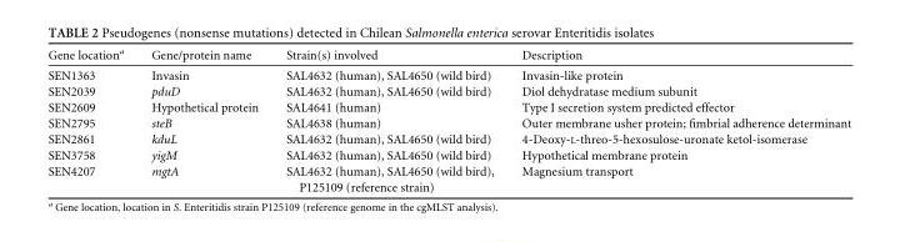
<table><thead><tr><td>Gene location<sup>a</sup></td><td>Gene/protein name</td><td>Strain(s) involved</td><td>Description</td></tr></thead><tbody><tr><td>SEN1363</td><td>Invasin</td><td>SAL4632 (human), SAL4650 (wild bird)</td><td>Invasin-like protein</td></tr><tr><td>SEN2039</td><td>pduD</td><td>SAL4632 (human), SAL4650 (wild bird)</td><td>Diol dehydratase medium subunit</td></tr><tr><td>SEN2609</td><td>Hypothetical protein</td><td>SAL4641 (human)</td><td>Type I secretion system predicted effector</td></tr><tr><td>SEN2795</td><td>steB</td><td>SAL4638 (human)</td><td>Outer membrane usher protein; fimbrial adherence determinant</td></tr><tr><td>SEN2861</td><td>kduL</td><td>SAL4632 (human), SAL4650 (wild bird)</td><td>4-Deoxy-L-threo-5-hexosulose-uronate ketol-isomerase</td></tr><tr><td>SEN3758</td><td>yigM</td><td>SAL4632 (human), SAL4650 (wild bird)</td><td>Hypothetical membrane protein</td></tr><tr><td>SEN4207</td><td>mgtA</td><td>SAL4632 (human), SAL4650 (wild bird), P125109 (reference strain)</td><td>Magnesium transport</td></tr></tbody></table>